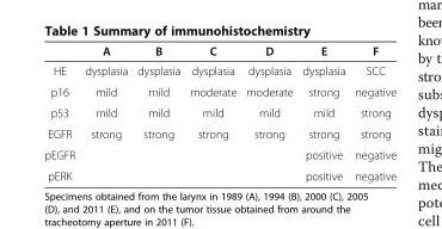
<table><thead><tr><td></td><td>A</td><td>B</td><td>C</td><td>D</td><td>E</td><td>F</td></tr></thead><tbody><tr><td>HE</td><td>dysplasia</td><td>dysplasia</td><td>dysplasia</td><td>dysplasia</td><td>dysplasia</td><td>SCC</td></tr><tr><td>p16</td><td>mild</td><td>mild</td><td>moderate</td><td>moderate</td><td>strong</td><td>negative</td></tr><tr><td>p53</td><td>mild</td><td>mild</td><td>mild</td><td>mild</td><td>mild</td><td>strong</td></tr><tr><td>EGFR</td><td>strong</td><td>strong</td><td>strong</td><td>strong</td><td>strong</td><td>strong</td></tr><tr><td>pEGFR</td><td></td><td></td><td></td><td></td><td>positive</td><td>negative</td></tr><tr><td>pERK</td><td></td><td></td><td></td><td></td><td>positive</td><td>negative</td></tr></tbody></table>